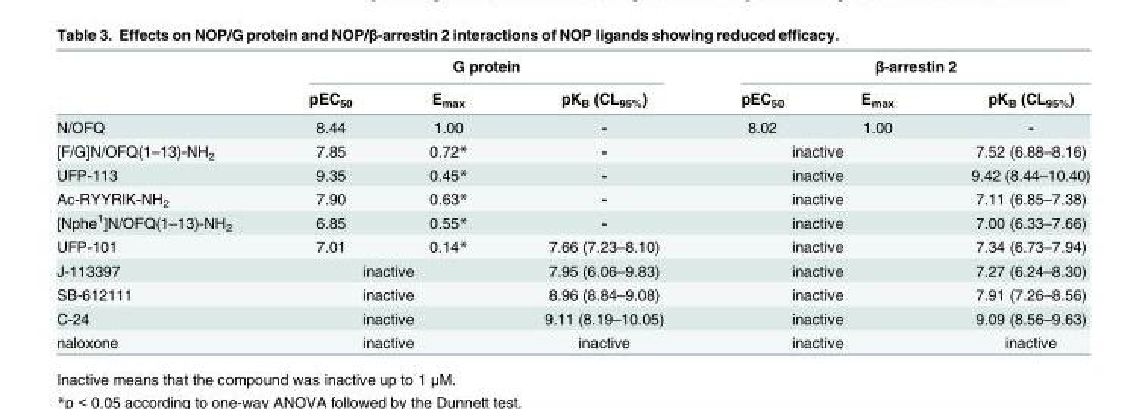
<table><thead><tr><td rowspan="2"></td><td colspan="3">G protein</td><td colspan="3">β-arrestin 2</td></tr><tr><td>pEC<sub>50</sub></td><td>E<sub>max</sub></td><td>pK<sub>B</sub> (CL<sub>95%</sub>)</td><td>pEC<sub>50</sub></td><td>E<sub>max</sub></td><td>pK<sub>B</sub> (CL<sub>95%</sub>)</td></tr></thead><tbody><tr><td>N/OFQ</td><td>8.44</td><td>1.00</td><td>-</td><td>8.02</td><td>1.00</td><td>-</td></tr><tr><td>[F/G]N/OFQ(1–13)-NH<sub>2</sub></td><td>7.85</td><td>0.72*</td><td>-</td><td colspan="2">inactive</td><td>7.52 (6.88–8.16)</td></tr><tr><td>UFP-113</td><td>9.35</td><td>0.45*</td><td>-</td><td colspan="2">inactive</td><td>9.42 (8.44–10.40)</td></tr><tr><td>Ac-RYYRIK-NH<sub>2</sub></td><td>7.90</td><td>0.63*</td><td>-</td><td colspan="2">inactive</td><td>7.11 (6.85–7.38)</td></tr><tr><td>[Nphe<sup>1</sup>]N/OFQ(1–13)-NH<sub>2</sub></td><td>6.85</td><td>0.55*</td><td>-</td><td colspan="2">inactive</td><td>7.00 (6.33–7.66)</td></tr><tr><td>UFP-101</td><td>7.01</td><td>0.14*</td><td>7.66 (7.23–8.10)</td><td colspan="2">inactive</td><td>7.34 (6.73–7.94)</td></tr><tr><td>J-113397</td><td colspan="2">inactive</td><td>7.95 (6.06–9.83)</td><td colspan="2">inactive</td><td>7.27 (6.24–8.30)</td></tr><tr><td>SB-612111</td><td colspan="2">inactive</td><td>8.96 (8.84–9.08)</td><td colspan="2">inactive</td><td>7.91 (7.26–8.56)</td></tr><tr><td>C-24</td><td colspan="2">inactive</td><td>9.11 (8.19–10.05)</td><td colspan="2">inactive</td><td>9.09 (8.56–9.63)</td></tr><tr><td>naloxone</td><td colspan="2">inactive</td><td>inactive</td><td colspan="2">inactive</td><td>inactive</td></tr></tbody></table>